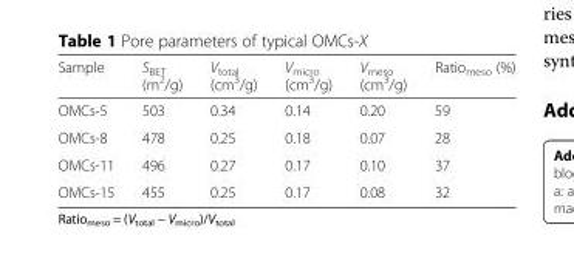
<table><thead><tr><td>Sample</td><td>S<sub>BET</sub> (m<sup>2</sup>/g)</td><td>V<sub>total</sub> (cm<sup>3</sup>/g)</td><td>V<sub>micro</sub> (cm<sup>3</sup>/g)</td><td>V<sub>meso</sub> (cm<sup>3</sup>/g)</td><td>Ratio<sub>meso</sub> (%)</td></tr></thead><tbody><tr><td>OMCs-5</td><td>503</td><td>0.34</td><td>0.14</td><td>0.20</td><td>59</td></tr><tr><td>OMCs-8</td><td>478</td><td>0.25</td><td>0.18</td><td>0.07</td><td>28</td></tr><tr><td>OMCs-11</td><td>496</td><td>0.27</td><td>0.17</td><td>0.10</td><td>37</td></tr><tr><td>OMCs-15</td><td>455</td><td>0.25</td><td>0.17</td><td>0.08</td><td>32</td></tr></tbody></table>